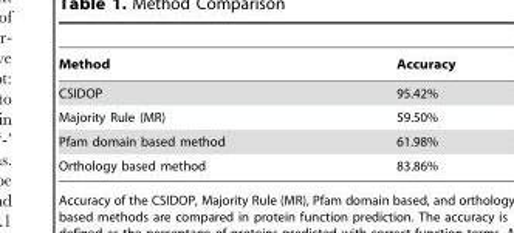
<table><thead><tr><td>Method</td><td>Accuracy</td></tr></thead><tbody><tr><td>CSIDOP</td><td>95.42%</td></tr><tr><td>Majority Rule (MR)</td><td>59.50%</td></tr><tr><td>Pfam domain based method</td><td>61.98%</td></tr><tr><td>Orthology based method</td><td>83.86%</td></tr></tbody></table>